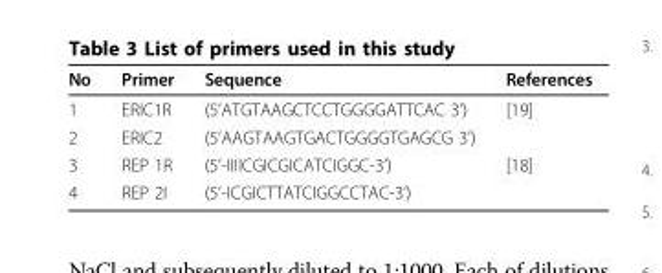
<table><thead><tr><td>No</td><td>Primer</td><td>Sequence</td><td>References</td></tr></thead><tbody><tr><td>1</td><td>ERIC1R</td><td>(5’ATGTAAGCTCCTGGGGATTCAC 3’)</td><td>[19]</td></tr><tr><td>2</td><td>ERIC2</td><td>(5’AAGTAAGTGACTGGGGTGAGCG 3’)</td><td></td></tr><tr><td>3</td><td>REP 1R</td><td>(5’-IIIICGICGICATCIGGC-3’)</td><td>[18]</td></tr><tr><td>4</td><td>REP 2I</td><td>(5’-ICGICTTATCIGGCCTAC-3’)</td><td></td></tr></tbody></table>